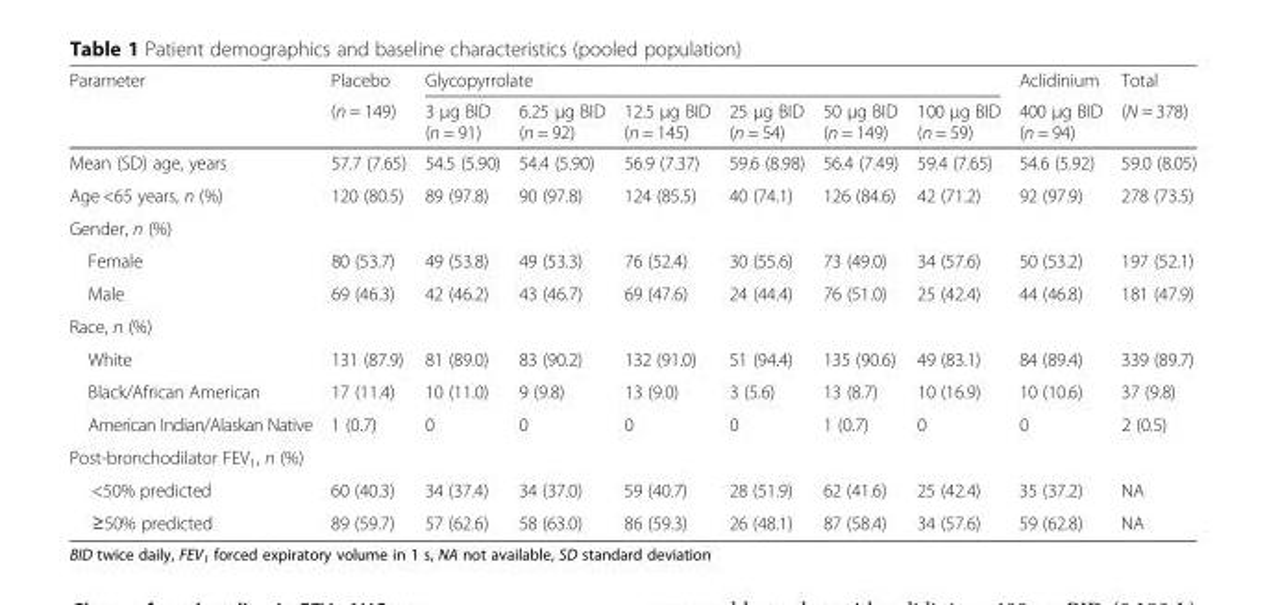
<table><thead><tr><td rowspan="2">Parameter</td><td rowspan="2">Placebo (n = 149)</td><td colspan="6">Glycopyrrolate</td><td rowspan="2">Aclidinium 400 μg BID (n = 94)</td><td rowspan="2">Total (N = 378)</td></tr><tr><td>3 μg BID (n = 91)</td><td>6.25 μg BID (n = 92)</td><td>12.5 μg BID (n = 145)</td><td>25 μg BID (n = 54)</td><td>50 μg BID (n = 149)</td><td>100 μg BID (n = 59)</td></tr></thead><tbody><tr><td>Mean (SD) age, years</td><td>57.7 (7.65)</td><td>54.5 (5.90)</td><td>54.4 (5.90)</td><td>56.9 (7.37)</td><td>59.6 (8.98)</td><td>56.4 (7.49)</td><td>59.4 (7.65)</td><td>54.6 (5.92)</td><td>59.0 (8.05)</td></tr><tr><td>Age &lt;65 years, n (%)</td><td>120 (80.5)</td><td>89 (97.8)</td><td>90 (97.8)</td><td>124 (85.5)</td><td>40 (74.1)</td><td>126 (84.6)</td><td>42 (71.2)</td><td>92 (97.9)</td><td>278 (73.5)</td></tr><tr><td colspan="10">Gender, n (%)</td></tr><tr><td>Female</td><td>80 (53.7)</td><td>49 (53.8)</td><td>49 (53.3)</td><td>76 (52.4)</td><td>30 (55.6)</td><td>73 (49.0)</td><td>34 (57.6)</td><td>50 (53.2)</td><td>197 (52.1)</td></tr><tr><td>Male</td><td>69 (46.3)</td><td>42 (46.2)</td><td>43 (46.7)</td><td>69 (47.6)</td><td>24 (44.4)</td><td>76 (51.0)</td><td>25 (42.4)</td><td>44 (46.8)</td><td>181 (47.9)</td></tr><tr><td colspan="10">Race, n (%)</td></tr><tr><td>White</td><td>131 (87.9)</td><td>81 (89.0)</td><td>83 (90.2)</td><td>132 (91.0)</td><td>51 (94.4)</td><td>135 (90.6)</td><td>49 (83.1)</td><td>84 (89.4)</td><td>339 (89.7)</td></tr><tr><td>Black/African American</td><td>17 (11.4)</td><td>10 (11.0)</td><td>9 (9.8)</td><td>13 (9.0)</td><td>3 (5.6)</td><td>13 (8.7)</td><td>10 (16.9)</td><td>10 (10.6)</td><td>37 (9.8)</td></tr><tr><td>American Indian/Alaskan Native</td><td>1 (0.7)</td><td>0</td><td>0</td><td>0</td><td>0</td><td>1 (0.7)</td><td>0</td><td>0</td><td>2 (0.5)</td></tr><tr><td colspan="10">Post-bronchodilator FEV<sub>1</sub>, n (%)</td></tr><tr><td>&lt;50% predicted</td><td>60 (40.3)</td><td>34 (37.4)</td><td>34 (37.0)</td><td>59 (40.7)</td><td>28 (51.9)</td><td>62 (41.6)</td><td>25 (42.4)</td><td>35 (37.2)</td><td>NA</td></tr><tr><td>≥50% predicted</td><td>89 (59.7)</td><td>57 (62.6)</td><td>58 (63.0)</td><td>86 (59.3)</td><td>26 (48.1)</td><td>87 (58.4)</td><td>34 (57.6)</td><td>59 (62.8)</td><td>NA</td></tr></tbody></table>